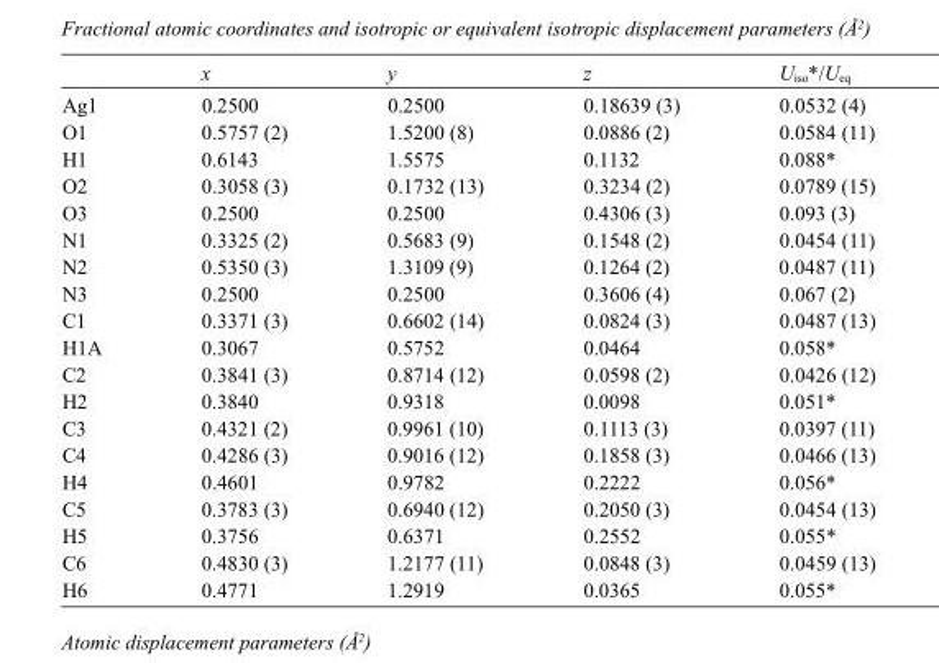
<table><thead><tr><td></td><td>x</td><td>y</td><td>z</td><td>U<sub>iso</sub>*/U<sub>eq</sub></td></tr></thead><tbody><tr><td>Ag1</td><td>0.2500</td><td>0.2500</td><td>0.18639 (3)</td><td>0.0532 (4)</td></tr><tr><td>O1</td><td>0.5757 (2)</td><td>1.5200 (8)</td><td>0.0886 (2)</td><td>0.0584 (11)</td></tr><tr><td>H1</td><td>0.6143</td><td>1.5575</td><td>0.1132</td><td>0.088*</td></tr><tr><td>O2</td><td>0.3058 (3)</td><td>0.1732 (13)</td><td>0.3234 (2)</td><td>0.0789 (15)</td></tr><tr><td>O3</td><td>0.2500</td><td>0.2500</td><td>0.4306 (3)</td><td>0.093 (3)</td></tr><tr><td>N1</td><td>0.3325 (2)</td><td>0.5683 (9)</td><td>0.1548 (2)</td><td>0.0454 (11)</td></tr><tr><td>N2</td><td>0.5350 (3)</td><td>1.3109 (9)</td><td>0.1264 (2)</td><td>0.0487 (11)</td></tr><tr><td>N3</td><td>0.2500</td><td>0.2500</td><td>0.3606 (4)</td><td>0.067 (2)</td></tr><tr><td>C1</td><td>0.3371 (3)</td><td>0.6602 (14)</td><td>0.0824 (3)</td><td>0.0487 (13)</td></tr><tr><td>H1A</td><td>0.3067</td><td>0.5752</td><td>0.0464</td><td>0.058*</td></tr><tr><td>C2</td><td>0.3841 (3)</td><td>0.8714 (12)</td><td>0.0598 (2)</td><td>0.0426 (12)</td></tr><tr><td>H2</td><td>0.3840</td><td>0.9318</td><td>0.0098</td><td>0.051*</td></tr><tr><td>C3</td><td>0.4321 (2)</td><td>0.9961 (10)</td><td>0.1113 (3)</td><td>0.0397 (11)</td></tr><tr><td>C4</td><td>0.4286 (3)</td><td>0.9016 (12)</td><td>0.1858 (3)</td><td>0.0466 (13)</td></tr><tr><td>H4</td><td>0.4601</td><td>0.9782</td><td>0.2222</td><td>0.056*</td></tr><tr><td>C5</td><td>0.3783 (3)</td><td>0.6940 (12)</td><td>0.2050 (3)</td><td>0.0454 (13)</td></tr><tr><td>H5</td><td>0.3756</td><td>0.6371</td><td>0.2552</td><td>0.055*</td></tr><tr><td>C6</td><td>0.4830 (3)</td><td>1.2177 (11)</td><td>0.0848 (3)</td><td>0.0459 (13)</td></tr><tr><td>H6</td><td>0.4771</td><td>1.2919</td><td>0.0365</td><td>0.055*</td></tr></tbody></table>